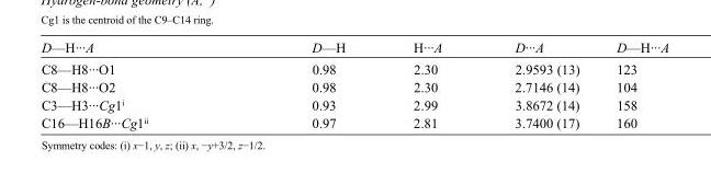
<table><tbody><tr><td>D—H···A</td><td>D—H</td><td>H···A</td><td>D···A</td><td>D—H···A</td></tr><tr><td>C8—H8···O1</td><td>0.98</td><td>2.30</td><td>2.9593 (13)</td><td>123</td></tr><tr><td>C8—H8···O2</td><td>0.98</td><td>2.30</td><td>2.7146 (14)</td><td>104</td></tr><tr><td>C3—H3···Cg1<sup>i</sup></td><td>0.93</td><td>2.99</td><td>3.8672 (14)</td><td>158</td></tr><tr><td>C16—H16B···Cg1<sup>ii</sup></td><td>0.97</td><td>2.81</td><td>3.7400 (17)</td><td>160</td></tr></tbody></table>